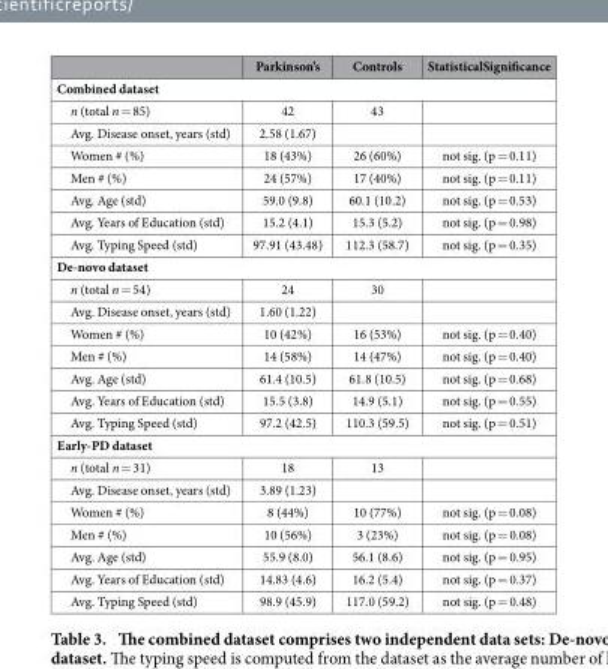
<table><thead><tr><td></td><td>Parkinson’s</td><td>Controls</td><td>StatisticalSignificance</td></tr></thead><tbody><tr><td colspan="4">Combined dataset</td></tr><tr><td>n (total n = 85)</td><td>42</td><td>43</td><td></td></tr><tr><td>Avg. Disease onset, years (std)</td><td>2.58 (1.67)</td><td></td><td></td></tr><tr><td>Women # (%)</td><td>18 (43%)</td><td>26 (60%)</td><td>not sig. (p = 0.11)</td></tr><tr><td>Men # (%)</td><td>24 (57%)</td><td>17 (40%)</td><td>not sig. (p = 0.11)</td></tr><tr><td>Avg. Age (std)</td><td>59.0 (9.8)</td><td>60.1 (10.2)</td><td>not sig. (p = 0.53)</td></tr><tr><td>Avg. Years of Education (std)</td><td>15.2 (4.1)</td><td>15.3 (5.2)</td><td>not sig. (p = 0.98)</td></tr><tr><td>Avg. Typing Speed (std)</td><td>97.91 (43.48)</td><td>112.3 (58.7)</td><td>not sig. (p = 0.35)</td></tr><tr><td colspan="4">De-novo dataset</td></tr><tr><td>n (total n = 54)</td><td>24</td><td>30</td><td></td></tr><tr><td>Avg. Disease onset, years (std)</td><td>1.60 (1.22)</td><td></td><td></td></tr><tr><td>Women # (%)</td><td>10 (42%)</td><td>16 (53%)</td><td>not sig. (p = 0.40)</td></tr><tr><td>Men # (%)</td><td>14 (58%)</td><td>14 (47%)</td><td>not sig. (p = 0.40)</td></tr><tr><td>Avg. Age (std)</td><td>61.4 (10.5)</td><td>61.8 (10.5)</td><td>not sig. (p = 0.68)</td></tr><tr><td>Avg. Years of Education (std)</td><td>15.5 (3.8)</td><td>14.9 (5.1)</td><td>not sig. (p = 0.55)</td></tr><tr><td>Avg. Typing Speed (std)</td><td>97.2 (42.5)</td><td>110.3 (59.5)</td><td>not sig. (p = 0.51)</td></tr><tr><td colspan="4">Early-PD dataset</td></tr><tr><td>n (total n = 31)</td><td>18</td><td>13</td><td></td></tr><tr><td>Avg. Disease onset, years (std)</td><td>3.89 (1.23)</td><td></td><td></td></tr><tr><td>Women # (%)</td><td>8 (44%)</td><td>10 (77%)</td><td>not sig. (p = 0.08)</td></tr><tr><td>Men # (%)</td><td>10 (56%)</td><td>3 (23%)</td><td>not sig. (p = 0.08)</td></tr><tr><td>Avg. Age (std)</td><td>55.9 (8.0)</td><td>56.1 (8.6)</td><td>not sig. (p = 0.95)</td></tr><tr><td>Avg. Years of Education (std)</td><td>14.83 (4.6)</td><td>16.2 (5.4)</td><td>not sig. (p = 0.37)</td></tr><tr><td>Avg. Typing Speed (std)</td><td>98.9 (45.9)</td><td>117.0 (59.2)</td><td>not sig. (p = 0.48)</td></tr></tbody></table>